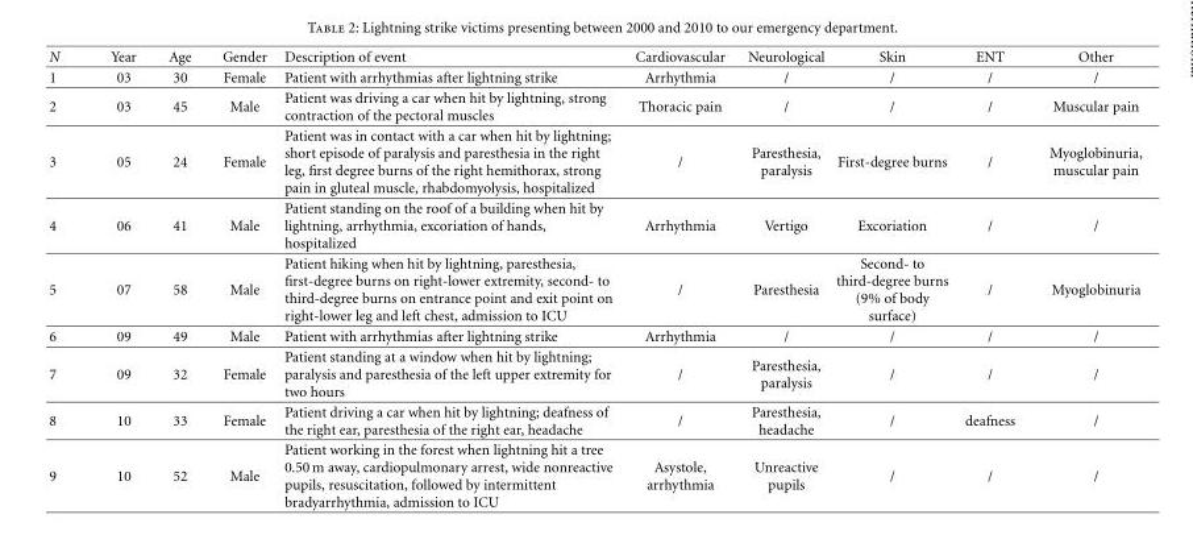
<table><thead><tr><td>N</td><td>Year</td><td>Age</td><td>Gender</td><td>Description of event</td><td>Cardiovascular</td><td>Neurological</td><td>Skin</td><td>ENT</td><td>Other</td></tr></thead><tbody><tr><td>1</td><td>03</td><td>30</td><td>Female</td><td>Patient with arrhythmias after lightning strike</td><td>Arrhythmia</td><td>/</td><td>/</td><td>/</td><td>/</td></tr><tr><td>2</td><td>03</td><td>45</td><td>Male</td><td>Patient was driving a car when hit by lightning, strong contraction of the pectoral muscles</td><td>Thoracic pain</td><td>/</td><td>/</td><td>/</td><td>Muscular pain</td></tr><tr><td>3</td><td>05</td><td>24</td><td>Female</td><td>Patient was in contact with a car when hit by lightning; short episode of paralysis and paresthesia in the right leg, first degree burns of the right hemithorax, strong pain in gluteal muscle, rhabdomyolysis, hospitalized</td><td>/</td><td>Paresthesia, paralysis</td><td>First-degree burns</td><td>/</td><td>Myoglobinuria, muscular pain</td></tr><tr><td>4</td><td>06</td><td>41</td><td>Male</td><td>Patient standing on the roof of a building when hit by lightning, arrhythmia, excoriation of hands, hospitalized</td><td>Arrhythmia</td><td>Vertigo</td><td>Excoriation</td><td>/</td><td>/</td></tr><tr><td>5</td><td>07</td><td>58</td><td>Male</td><td>Patient hiking when hit by lightning, paresthesia, first-degree burns on right-lower extremity, second- to third-degree burns on entrance point and exit point on right-lower leg and left chest, admission to ICU</td><td>/</td><td>Paresthesia</td><td>Second- to third-degree burns (9% of body surface)</td><td>/</td><td>Myoglobinuria</td></tr><tr><td>6</td><td>09</td><td>49</td><td>Male</td><td>Patient with arrhythmias after lightning strike</td><td>Arrhythmia</td><td>/</td><td>/</td><td>/</td><td>/</td></tr><tr><td>7</td><td>09</td><td>32</td><td>Female</td><td>Patient standing at a window when hit by lightning; paralysis and paresthesia of the left upper extremity for two hours</td><td>/</td><td>Paresthesia, paralysis</td><td>/</td><td>/</td><td>/</td></tr><tr><td>8</td><td>10</td><td>33</td><td>Female</td><td>Patient driving a car when hit by lightning; deafness of the right ear, paresthesia of the right ear, headache</td><td>/</td><td>Paresthesia, headache</td><td>/</td><td>deafness</td><td>/</td></tr><tr><td>9</td><td>10</td><td>52</td><td>Male</td><td>Patient working in the forest when lightning hit a tree 0.50 m away, cardiopulmonary arrest, wide nonreactive pupils, resuscitation, followed by intermittent bradyarrhythmia, admission to ICU</td><td>Asystole, arrhythmia</td><td>Unreactive pupils</td><td>/</td><td>/</td><td>/</td></tr></tbody></table>